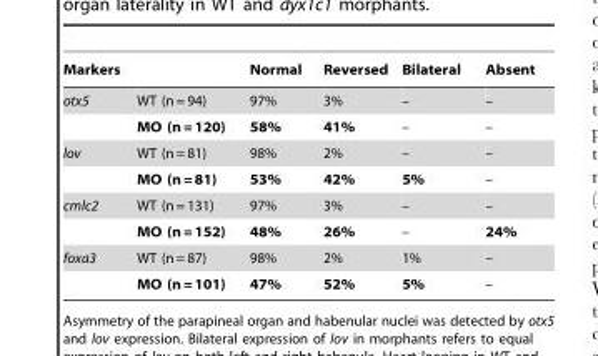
<table><thead><tr><td>Markers</td><td></td><td>Normal</td><td>Reversed</td><td>Bilateral</td><td>Absent</td></tr></thead><tbody><tr><td rowspan="2">otx5</td><td>WT (n = 94)</td><td>97%</td><td>3%</td><td>–</td><td>–</td></tr><tr><td>MO (n = 120)</td><td>58%</td><td>41%</td><td>–</td><td>–</td></tr><tr><td rowspan="2">lov</td><td>WT (n = 81)</td><td>98%</td><td>2%</td><td>–</td><td>–</td></tr><tr><td>MO (n = 81)</td><td>53%</td><td>42%</td><td>5%</td><td>–</td></tr><tr><td rowspan="2">cmlc2</td><td>WT (n = 131)</td><td>97%</td><td>3%</td><td>–</td><td>–</td></tr><tr><td>MO (n = 152)</td><td>48%</td><td>26%</td><td>–</td><td>24%</td></tr><tr><td rowspan="2">foxa3</td><td>WT (n = 87)</td><td>98%</td><td>2%</td><td>1%</td><td>–</td></tr><tr><td>MO (n = 101)</td><td>47%</td><td>52%</td><td>5%</td><td>–</td></tr></tbody></table>